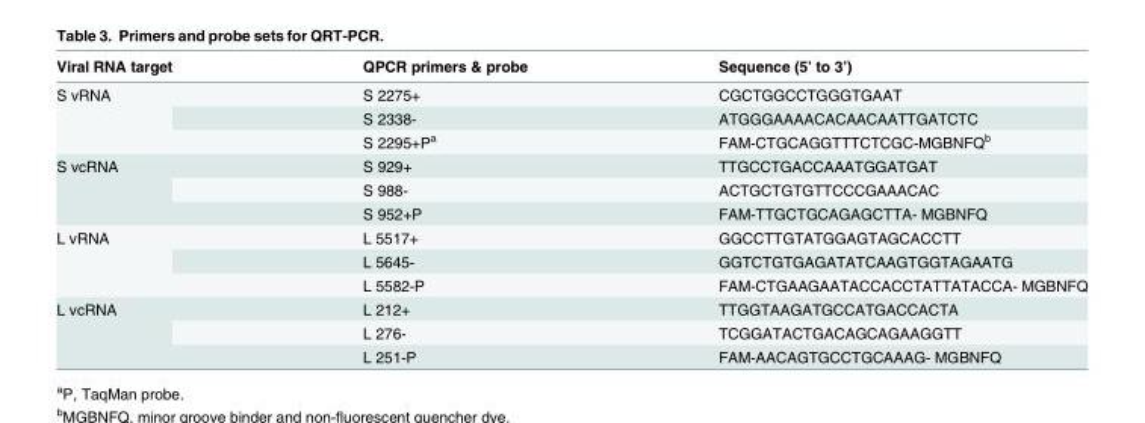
<table><thead><tr><td>Viral RNA target</td><td>QPCR primers &amp; probe</td><td>Sequence (5’ to 3’)</td></tr></thead><tbody><tr><td rowspan="3">S vRNA</td><td>S 2275+</td><td>CGCTGGCCTGGGTGAAT</td></tr><tr><td>S 2338-</td><td>ATGGGAAAACACAACAATTGATCTC</td></tr><tr><td>S 2295+P<sup>a</sup></td><td>FAM-CTGCAGGTTTCTCGC-MGBNFQ<sup>b</sup></td></tr><tr><td rowspan="3">S vcRNA</td><td>S 929+</td><td>TTGCCTGACCAAATGGATGAT</td></tr><tr><td>S 988-</td><td>ACTGCTGTGTTCCCGAAACAC</td></tr><tr><td>S 952+P</td><td>FAM-TTGCTGCAGAGCTTA- MGBNFQ</td></tr><tr><td rowspan="3">L vRNA</td><td>L 5517+</td><td>GGCCTTGTATGGAGTAGCACCTT</td></tr><tr><td>L 5645-</td><td>GGTCTGTGAGATATCAAGTGGTAGAATG</td></tr><tr><td>L 5582-P</td><td>FAM-CTGAAGAATACCACCTATTATACCA- MGBNFQ</td></tr><tr><td rowspan="3">L vcRNA</td><td>L 212+</td><td>TTGGTAAGATGCCATGACCACTA</td></tr><tr><td>L 276-</td><td>TCGGATACTGACAGCAGAAGGTT</td></tr><tr><td>L 251-P</td><td>FAM-AACAGTGCCTGCAAAG- MGBNFQ</td></tr></tbody></table>